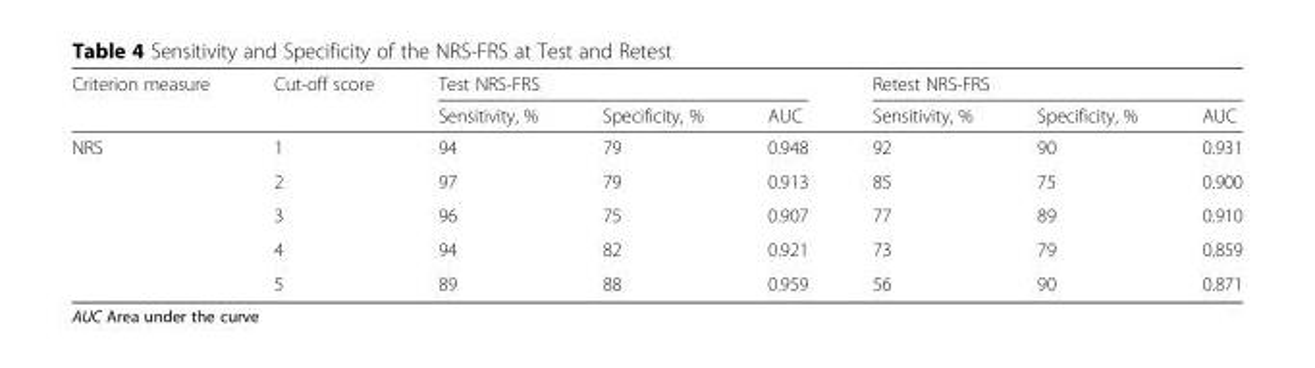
<table><thead><tr><td rowspan="2">Criterion measure</td><td rowspan="2">Cut-off score</td><td colspan="3">Test NRS-FRS</td><td colspan="3">Retest NRS-FRS</td></tr><tr><td>Sensitivity, %</td><td>Specificity, %</td><td>AUC</td><td>Sensitivity, %</td><td>Specificity, %</td><td>AUC</td></tr></thead><tbody><tr><td rowspan="5">NRS</td><td>1</td><td>94</td><td>79</td><td>0.948</td><td>92</td><td>90</td><td>0.931</td></tr><tr><td>2</td><td>97</td><td>79</td><td>0.913</td><td>85</td><td>75</td><td>0.900</td></tr><tr><td>3</td><td>96</td><td>75</td><td>0.907</td><td>77</td><td>89</td><td>0.910</td></tr><tr><td>4</td><td>94</td><td>82</td><td>0.921</td><td>73</td><td>79</td><td>0.859</td></tr><tr><td>5</td><td>89</td><td>88</td><td>0.959</td><td>56</td><td>90</td><td>0.871</td></tr></tbody></table>